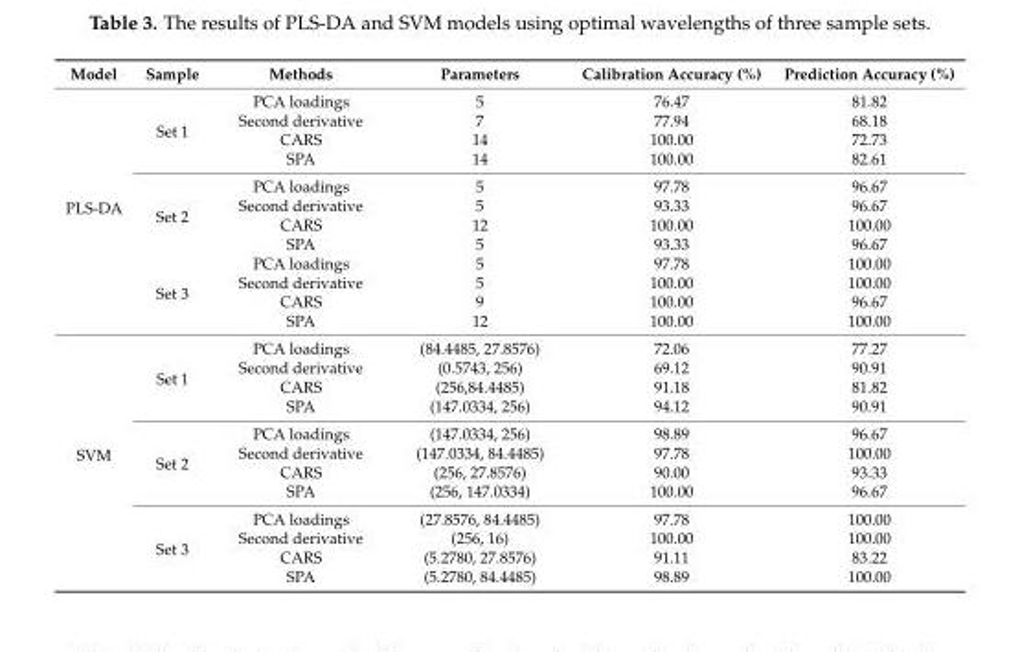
<table><thead><tr><td>Model</td><td>Sample</td><td>Methods</td><td>Parameters</td><td>Calibration Accuracy (%)</td><td>Prediction Accuracy (%)</td></tr></thead><tbody><tr><td rowspan="12">PLS-DA</td><td rowspan="4">Set 1</td><td>PCA loadings</td><td>5</td><td>76.47</td><td>81.82</td></tr><tr><td>Second derivative</td><td>7</td><td>77.94</td><td>68.18</td></tr><tr><td>CARS</td><td>14</td><td>100.00</td><td>72.73</td></tr><tr><td>SPA</td><td>14</td><td>100.00</td><td>82.61</td></tr><tr><td rowspan="4">Set 2</td><td>PCA loadings</td><td>5</td><td>97.78</td><td>96.67</td></tr><tr><td>Second derivative</td><td>5</td><td>93.33</td><td>96.67</td></tr><tr><td>CARS</td><td>12</td><td>100.00</td><td>100.00</td></tr><tr><td>SPA</td><td>5</td><td>93.33</td><td>96.67</td></tr><tr><td rowspan="4">Set 3</td><td>PCA loadings</td><td>5</td><td>97.78</td><td>100.00</td></tr><tr><td>Second derivative</td><td>5</td><td>100.00</td><td>100.00</td></tr><tr><td>CARS</td><td>9</td><td>100.00</td><td>96.67</td></tr><tr><td>SPA</td><td>12</td><td>100.00</td><td>100.00</td></tr><tr><td rowspan="12">SVM</td><td rowspan="4">Set 1</td><td>PCA loadings</td><td>(84.4485, 27.8576)</td><td>72.06</td><td>77.27</td></tr><tr><td>Second derivative</td><td>(0.5743, 256)</td><td>69.12</td><td>90.91</td></tr><tr><td>CARS</td><td>(256,84.4485)</td><td>91.18</td><td>81.82</td></tr><tr><td>SPA</td><td>(147.0334, 256)</td><td>94.12</td><td>90.91</td></tr><tr><td rowspan="4">Set 2</td><td>PCA loadings</td><td>(147.0334, 256)</td><td>98.89</td><td>96.67</td></tr><tr><td>Second derivative</td><td>(147.0334, 84.4485)</td><td>97.78</td><td>100.00</td></tr><tr><td>CARS</td><td>(256, 27.8576)</td><td>90.00</td><td>93.33</td></tr><tr><td>SPA</td><td>(256, 147.0334)</td><td>100.00</td><td>96.67</td></tr><tr><td rowspan="4">Set 3</td><td>PCA loadings</td><td>(27.8576, 84.4485)</td><td>97.78</td><td>100.00</td></tr><tr><td>Second derivative</td><td>(256, 16)</td><td>100.00</td><td>100.00</td></tr><tr><td>CARS</td><td>(5.2780, 27.8576)</td><td>91.11</td><td>83.22</td></tr><tr><td>SPA</td><td>(5.2780, 84.4485)</td><td>98.89</td><td>100.00</td></tr></tbody></table>